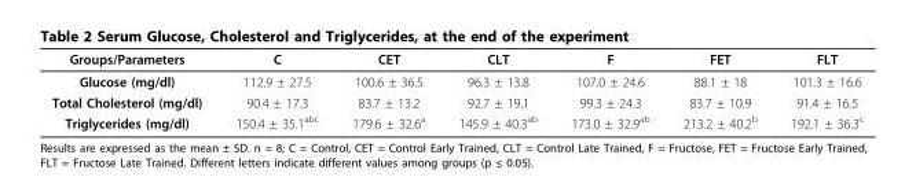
<table><thead><tr><td>Groups/Parameters</td><td>C</td><td>CET</td><td>CLT</td><td>F</td><td>FET</td><td>FLT</td></tr></thead><tbody><tr><td>Glucose (mg/dl)</td><td>112.9 ± 27.5</td><td>100.6 ± 36.5</td><td>96.3 ± 13.8</td><td>107.0 ± 24.6</td><td>88.1 ± 18</td><td>101.3 ± 16.6</td></tr><tr><td>Total Cholesterol (mg/dl)</td><td>90.4 ± 17.3</td><td>83.7 ± 13.2</td><td>92.7 ± 19.1</td><td>99.3 ± 24.3</td><td>83.7 ± 10.9</td><td>91.4 ± 16.5</td></tr><tr><td>Triglycerides (mg/dl)</td><td>150.4 ± 35.1<sup>abc</sup></td><td>179.6 ± 32.6<sup>a</sup></td><td>145.9 ± 40.3<sup>ab</sup></td><td>173.0 ± 32.9<sup>ab</sup></td><td>213.2 ± 40.2<sup>b</sup></td><td>192.1 ± 36.3<sup>c</sup></td></tr></tbody></table>